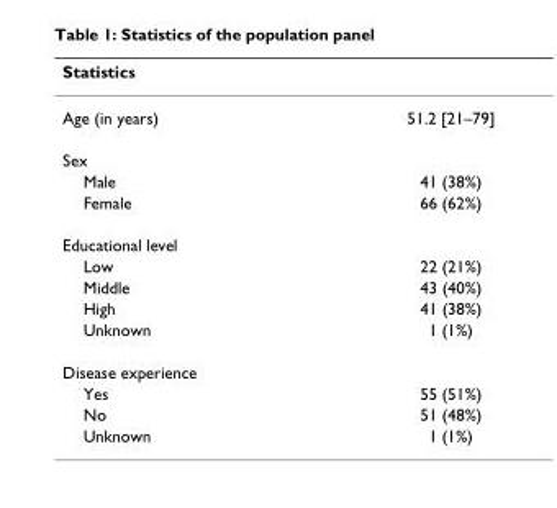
<table><thead><tr><td>Statistics</td><td></td></tr></thead><tbody><tr><td>Age (in years)</td><td>51.2 [21–79]</td></tr><tr><td colspan="2">Sex</td></tr><tr><td>Male</td><td>41 (38%)</td></tr><tr><td>Female</td><td>66 (62%)</td></tr><tr><td colspan="2">Educational level</td></tr><tr><td>Low</td><td>22 (21%)</td></tr><tr><td>Middle</td><td>43 (40%)</td></tr><tr><td>High</td><td>41 (38%)</td></tr><tr><td>Unknown</td><td>1 (1%)</td></tr><tr><td colspan="2">Disease experience</td></tr><tr><td>Yes</td><td>55 (51%)</td></tr><tr><td>No</td><td>51 (48%)</td></tr><tr><td>Unknown</td><td>1 (1%)</td></tr></tbody></table>